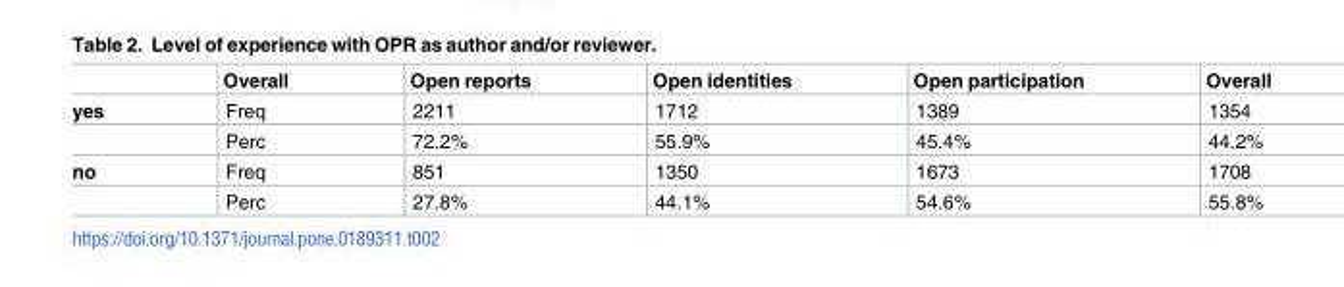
<table><thead><tr><td></td><td>Overall</td><td>Open reports</td><td>Open identities</td><td>Open participation</td><td>Overall</td></tr></thead><tbody><tr><td rowspan="2">yes</td><td>Freq</td><td>2211</td><td>1712</td><td>1389</td><td>1354</td></tr><tr><td>Perc</td><td>72.2%</td><td>55.9%</td><td>45.4%</td><td>44.2%</td></tr><tr><td rowspan="2">no</td><td>Freq</td><td>851</td><td>1350</td><td>1673</td><td>1708</td></tr><tr><td>Perc</td><td>27.8%</td><td>44.1%</td><td>54.6%</td><td>55.8%</td></tr></tbody></table>